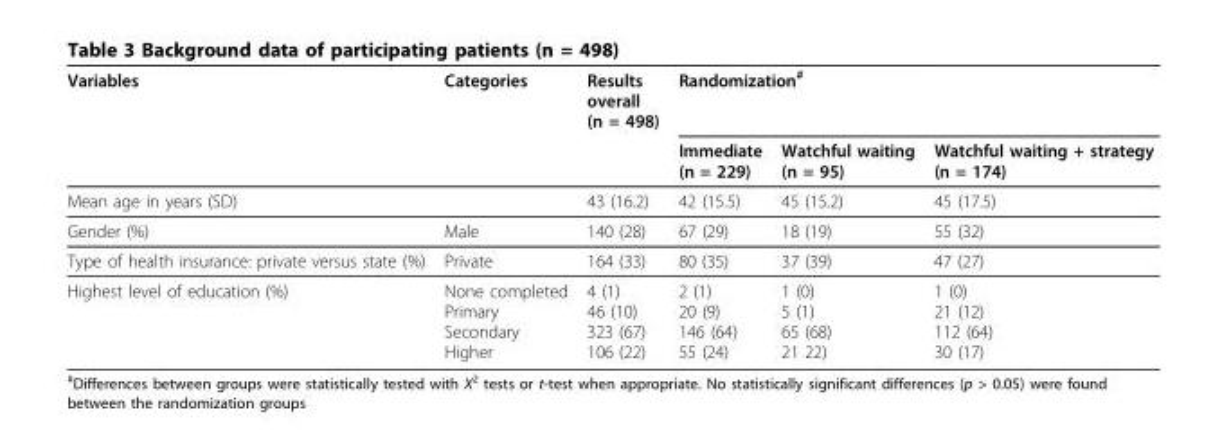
<table><thead><tr><td rowspan="2">Variables</td><td rowspan="2">Categories</td><td rowspan="2">Results overall (n = 498)</td><td colspan="3">Randomization<sup>#</sup></td></tr><tr><td>Immediate (n = 229)</td><td>Watchful waiting (n = 95)</td><td>Watchful waiting + strategy (n = 174)</td></tr></thead><tbody><tr><td>Mean age in years (SD)</td><td></td><td>43 (16.2)</td><td>42 (15.5)</td><td>45 (15.2)</td><td>45 (17.5)</td></tr><tr><td>Gender (%)</td><td>Male</td><td>140 (28)</td><td>67 (29)</td><td>18 (19)</td><td>55 (32)</td></tr><tr><td>Type of health insurance: private versus state (%)</td><td>Private</td><td>164 (33)</td><td>80 (35)</td><td>37 (39)</td><td>47 (27)</td></tr><tr><td>Highest level of education (%)</td><td>None completed Primary Secondary Higher</td><td>4 (1) 46 (10) 323 (67) 106 (22)</td><td>2 (1) 20 (9) 146 (64) 55 (24)</td><td>1 (0) 5 (1) 65 (68) 21 22)</td><td>1 (0) 21 (12) 112 (64) 30 (17)</td></tr></tbody></table>